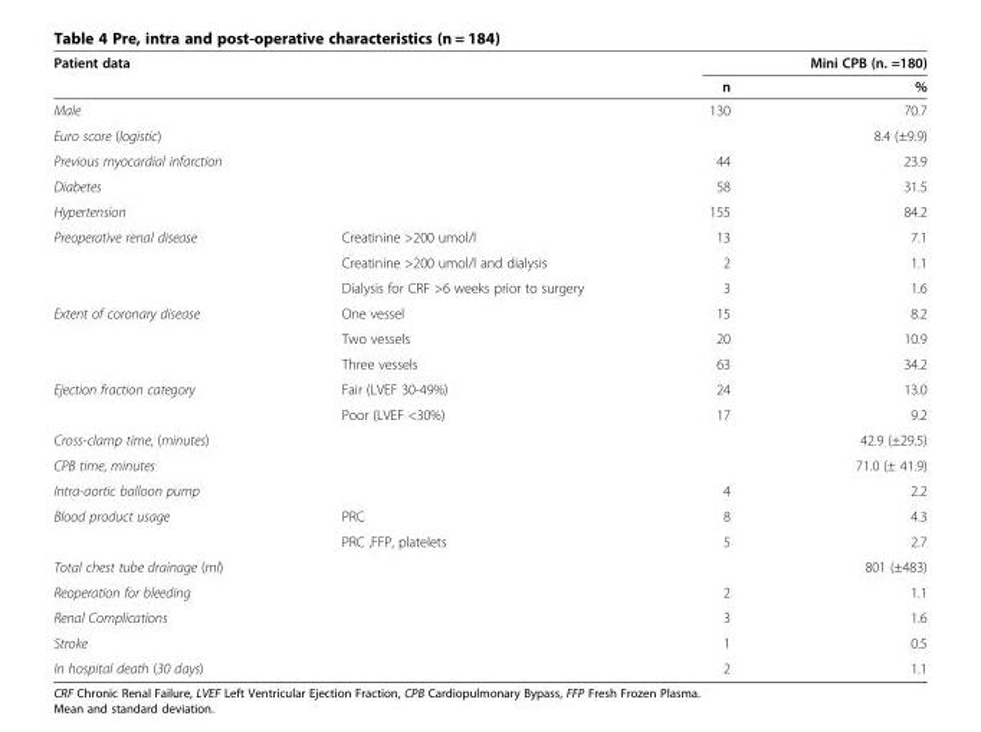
<table><thead><tr><td rowspan="2">Patient data</td><td rowspan="2"></td><td colspan="2">Mini CPB (n. =180)</td></tr><tr><td>n</td><td>%</td></tr></thead><tbody><tr><td>Male</td><td></td><td>130</td><td>70.7</td></tr><tr><td>Euro score (logistic)</td><td></td><td colspan="2">8.4 (±9.9)</td></tr><tr><td>Previous myocardial infarction</td><td></td><td>44</td><td>23.9</td></tr><tr><td>Diabetes</td><td></td><td>58</td><td>31.5</td></tr><tr><td>Hypertension</td><td></td><td>155</td><td>84.2</td></tr><tr><td rowspan="3">Preoperative renal disease</td><td>Creatinine &gt;200 umol/l</td><td>13</td><td>7.1</td></tr><tr><td>Creatinine &gt;200 umol/l and dialysis</td><td>2</td><td>1.1</td></tr><tr><td>Dialysis for CRF &gt;6 weeks prior to surgery</td><td>3</td><td>1.6</td></tr><tr><td rowspan="3">Extent of coronary disease</td><td>One vessel</td><td>15</td><td>8.2</td></tr><tr><td>Two vessels</td><td>20</td><td>10.9</td></tr><tr><td>Three vessels</td><td>63</td><td>34.2</td></tr><tr><td rowspan="2">Ejection fraction category</td><td>Fair (LVEF 30-49%)</td><td>24</td><td>13.0</td></tr><tr><td>Poor (LVEF &lt;30%)</td><td>17</td><td>9.2</td></tr><tr><td>Cross-clamp time, (minutes)</td><td></td><td></td><td>42.9 (±29.5)</td></tr><tr><td>CPB time, minutes</td><td></td><td></td><td>71.0 (± 41.9)</td></tr><tr><td>Intra-aortic balloon pump</td><td></td><td>4</td><td>2.2</td></tr><tr><td rowspan="2">Blood product usage</td><td>PRC</td><td>8</td><td>4.3</td></tr><tr><td>PRC ,FFP, platelets</td><td>5</td><td>2.7</td></tr><tr><td>Total chest tube drainage (ml)</td><td></td><td colspan="2">801 (±483)</td></tr><tr><td>Reoperation for bleeding</td><td></td><td>2</td><td>1.1</td></tr><tr><td>Renal Complications</td><td></td><td>3</td><td>1.6</td></tr><tr><td>Stroke</td><td></td><td>1</td><td>0.5</td></tr><tr><td>In hospital death (30 days)</td><td></td><td>2</td><td>1.1</td></tr></tbody></table>